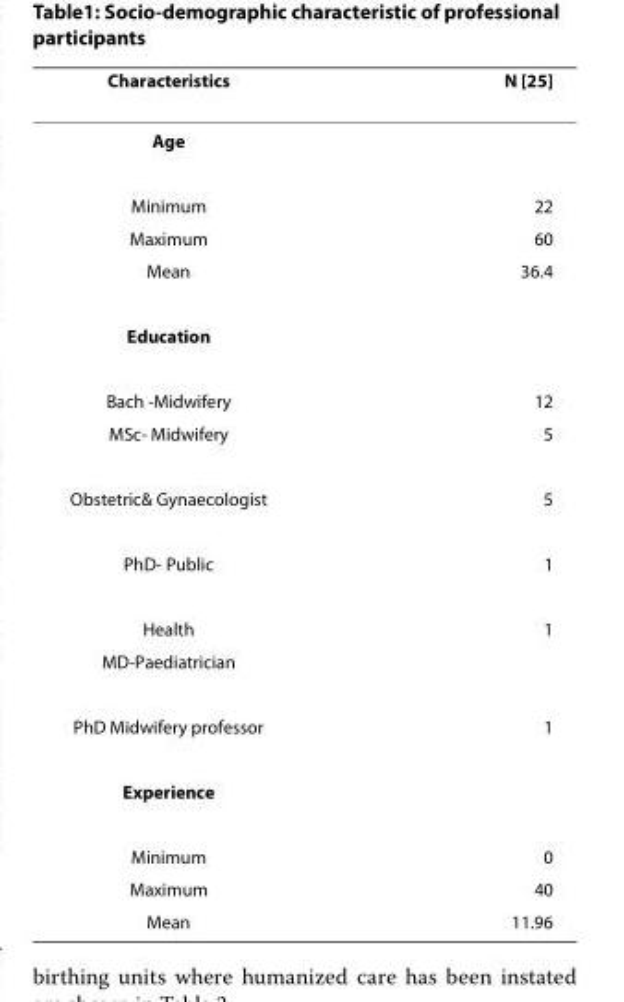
<table><thead><tr><td>Characteristics</td><td>N [25]</td></tr></thead><tbody><tr><td colspan="2">Age</td></tr><tr><td>Minimum</td><td>22</td></tr><tr><td>Maximum</td><td>60</td></tr><tr><td>Mean</td><td>36.4</td></tr><tr><td colspan="2">Education</td></tr><tr><td>Bach -Midwifery</td><td>12</td></tr><tr><td>MSc- Midwifery</td><td>5</td></tr><tr><td>Obstetric&amp; Gynaecologist</td><td>5</td></tr><tr><td>PhD- Public</td><td>1</td></tr><tr><td>Health</td><td>1</td></tr><tr><td colspan="2">MD-Paediatrician</td></tr><tr><td>PhD Midwifery professor</td><td>1</td></tr><tr><td colspan="2">Experience</td></tr><tr><td>Minimum</td><td>0</td></tr><tr><td>Maximum</td><td>40</td></tr><tr><td>Mean</td><td>11.96</td></tr></tbody></table>